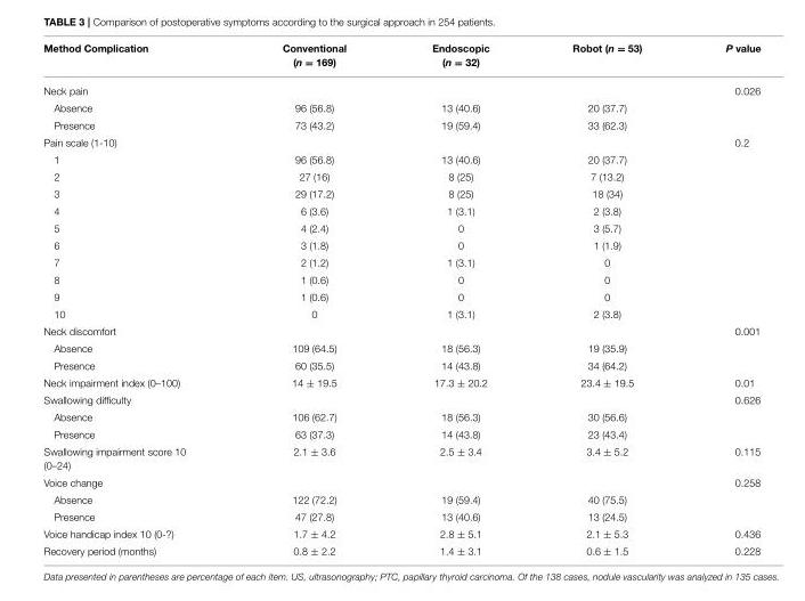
<table><thead><tr><td>Method Complication</td><td>Conventional (n = 169)</td><td>Endoscopic (n = 32)</td><td>Robot (n = 53)</td><td>P value</td></tr></thead><tbody><tr><td>Neck pain</td><td></td><td></td><td></td><td>0.026</td></tr><tr><td>Absence</td><td>96 (56.8)</td><td>13 (40.6)</td><td>20 (37.7)</td><td></td></tr><tr><td>Presence</td><td>73 (43.2)</td><td>19 (59.4)</td><td>33 (62.3)</td><td></td></tr><tr><td>Pain scale (1-10)</td><td></td><td></td><td></td><td>0.2</td></tr><tr><td>1</td><td>96 (56.8)</td><td>13 (40.6)</td><td>20 (37.7)</td><td></td></tr><tr><td>2</td><td>27 (16)</td><td>8 (25)</td><td>7 (13.2)</td><td></td></tr><tr><td>3</td><td>29 (17.2)</td><td>8 (25)</td><td>18 (34)</td><td></td></tr><tr><td>4</td><td>6 (3.6)</td><td>1 (3.1)</td><td>2 (3.8)</td><td></td></tr><tr><td>5</td><td>4 (2.4)</td><td>0</td><td>3 (5.7)</td><td></td></tr><tr><td>6</td><td>3 (1.8)</td><td>0</td><td>1 (1.9)</td><td></td></tr><tr><td>7</td><td>2 (1.2)</td><td>1 (3.1)</td><td>0</td><td></td></tr><tr><td>8</td><td>1 (0.6)</td><td>0</td><td>0</td><td></td></tr><tr><td>9</td><td>1 (0.6)</td><td>0</td><td>0</td><td></td></tr><tr><td>10</td><td>0</td><td>1 (3.1)</td><td>2 (3.8)</td><td></td></tr><tr><td>Neck discomfort</td><td></td><td></td><td></td><td>0.001</td></tr><tr><td>Absence</td><td>109 (64.5)</td><td>18 (56.3)</td><td>19 (35.9)</td><td></td></tr><tr><td>Presence</td><td>60 (35.5)</td><td>14 (43.8)</td><td>34 (64.2)</td><td></td></tr><tr><td>Neck impairment index (0–100)</td><td>14 ± 19.5</td><td>17.3 ± 20.2</td><td>23.4 ± 19.5</td><td>0.01</td></tr><tr><td>Swallowing difficulty</td><td></td><td></td><td></td><td>0.626</td></tr><tr><td>Absence</td><td>106 (62.7)</td><td>18 (56.3)</td><td>30 (56.6)</td><td></td></tr><tr><td>Presence</td><td>63 (37.3)</td><td>14 (43.8)</td><td>23 (43.4)</td><td></td></tr><tr><td>Swallowing impairment score 10 (0–24)</td><td>2.1 ± 3.6</td><td>2.5 ± 3.4</td><td>3.4 ± 5.2</td><td>0.115</td></tr><tr><td>Voice change</td><td></td><td></td><td></td><td>0.258</td></tr><tr><td>Absence</td><td>122 (72.2)</td><td>19 (59.4)</td><td>40 (75.5)</td><td></td></tr><tr><td>Presence</td><td>47 (27.8)</td><td>13 (40.6)</td><td>13 (24.5)</td><td></td></tr><tr><td>Voice handicap index 10 (0-?)</td><td>1.7 ± 4.2</td><td>2.8 ± 5.1</td><td>2.1 ± 5.3</td><td>0.436</td></tr><tr><td>Recovery period (months)</td><td>0.8 ± 2.2</td><td>1.4 ± 3.1</td><td>0.6 ± 1.5</td><td>0.228</td></tr></tbody></table>